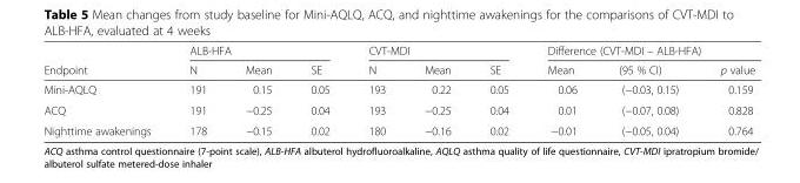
<table><thead><tr><td rowspan="2">Endpoint</td><td colspan="3">ALB-HFA</td><td colspan="3">CVT-MDI</td><td colspan="3">Difference (CVT-MDI – ALB-HFA)</td></tr><tr><td>N</td><td>Mean</td><td>SE</td><td>N</td><td>Mean</td><td>SE</td><td>Mean</td><td>(95 % CI)</td><td>p value</td></tr></thead><tbody><tr><td>Mini-AQLQ</td><td>191</td><td>0.15</td><td>0.05</td><td>193</td><td>0.22</td><td>0.05</td><td>0.06</td><td>(−0.03, 0.15)</td><td>0.159</td></tr><tr><td>ACQ</td><td>191</td><td>−0.25</td><td>0.04</td><td>193</td><td>−0.25</td><td>0.04</td><td>0.01</td><td>(−0.07, 0.08)</td><td>0.828</td></tr><tr><td>Nighttime awakenings</td><td>178</td><td>−0.15</td><td>0.02</td><td>180</td><td>−0.16</td><td>0.02</td><td>−0.01</td><td>(−0.05, 0.04)</td><td>0.764</td></tr></tbody></table>